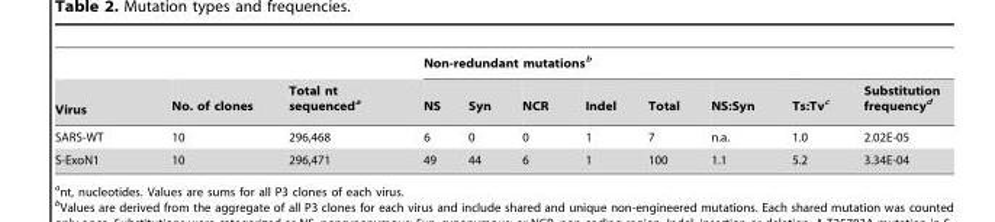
<table><thead><tr><td rowspan="2">Virus</td><td rowspan="2">No. of clones</td><td rowspan="2">Total nt sequenced<sup>a</sup></td><td colspan="8">Non-redundant mutations<sup>b</sup></td></tr><tr><td>NS</td><td>Syn</td><td>NCR</td><td>Indel</td><td>Total</td><td>NS:Syn</td><td>Ts:Tv<sup>c</sup></td><td>Substitution frequency<sup>d</sup></td></tr></thead><tbody><tr><td>SARS-WT</td><td>10</td><td>296,468</td><td>6</td><td>0</td><td>0</td><td>1</td><td>7</td><td>n.a.</td><td>1.0</td><td>2.02E-05</td></tr><tr><td>S-ExoN1</td><td>10</td><td>296,471</td><td>49</td><td>44</td><td>6</td><td>1</td><td>100</td><td>1.1</td><td>5.2</td><td>3.34E-04</td></tr></tbody></table>